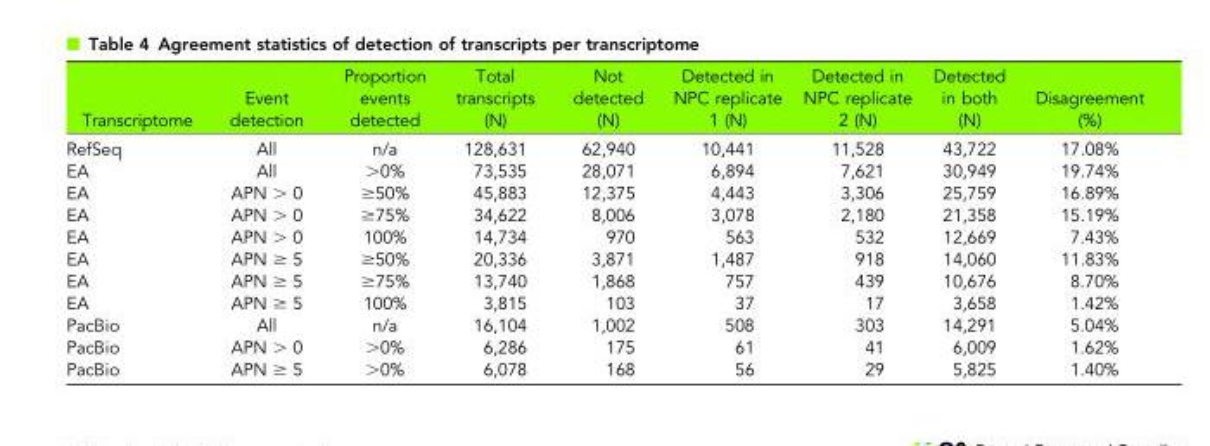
<table><thead><tr><td>Transcriptome</td><td>Event detection</td><td>Proportion events detected</td><td>Total transcripts (N)</td><td>Not detected (N)</td><td>Detected in NPC replicate 1 (N)</td><td>Detected in NPC replicate 2 (N)</td><td>Detected in both (N)</td><td>Disagreement (%)</td></tr></thead><tbody><tr><td>RefSeq</td><td>All</td><td>n/a</td><td>128,631</td><td>62,940</td><td>10,441</td><td>11,528</td><td>43,722</td><td>17.08%</td></tr><tr><td>EA</td><td>All</td><td>&gt;0%</td><td>73,535</td><td>28,071</td><td>6,894</td><td>7,621</td><td>30,949</td><td>19.74%</td></tr><tr><td>EA</td><td>APN &gt; 0</td><td>≥50%</td><td>45,883</td><td>12,375</td><td>4,443</td><td>3,306</td><td>25,759</td><td>16.89%</td></tr><tr><td>EA</td><td>APN &gt; 0</td><td>≥75%</td><td>34,622</td><td>8,006</td><td>3,078</td><td>2,180</td><td>21,358</td><td>15.19%</td></tr><tr><td>EA</td><td>APN &gt; 0</td><td>100%</td><td>14,734</td><td>970</td><td>563</td><td>532</td><td>12,669</td><td>7.43%</td></tr><tr><td>EA</td><td>APN ≥ 5</td><td>≥50%</td><td>20,336</td><td>3,871</td><td>1,487</td><td>918</td><td>14,060</td><td>11.83%</td></tr><tr><td>EA</td><td>APN ≥ 5</td><td>≥75%</td><td>13,740</td><td>1,868</td><td>757</td><td>439</td><td>10,676</td><td>8.70%</td></tr><tr><td>EA</td><td>APN ≥ 5</td><td>100%</td><td>3,815</td><td>103</td><td>37</td><td>17</td><td>3,658</td><td>1.42%</td></tr><tr><td>PacBio</td><td>All</td><td>n/a</td><td>16,104</td><td>1,002</td><td>508</td><td>303</td><td>14,291</td><td>5.04%</td></tr><tr><td>PacBio</td><td>APN &gt; 0</td><td>&gt;0%</td><td>6,286</td><td>175</td><td>61</td><td>41</td><td>6,009</td><td>1.62%</td></tr><tr><td>PacBio</td><td>APN ≥ 5</td><td>&gt;0%</td><td>6,078</td><td>168</td><td>56</td><td>29</td><td>5,825</td><td>1.40%</td></tr></tbody></table>